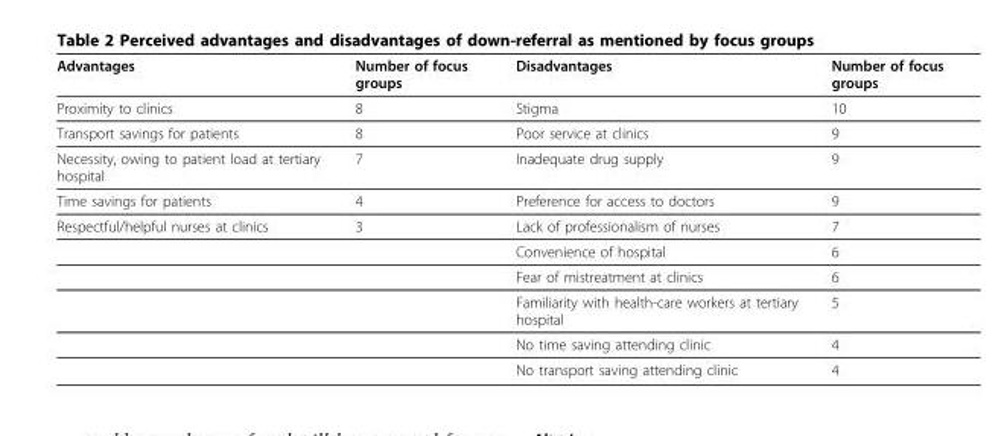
<table><thead><tr><td>Advantages</td><td>Number of focus groups</td><td>Disadvantages</td><td>Number of focus groups</td></tr></thead><tbody><tr><td>Proximity to clinics</td><td>8</td><td>Stigma</td><td>10</td></tr><tr><td>Transport savings for patients</td><td>8</td><td>Poor service at clinics</td><td>9</td></tr><tr><td>Necessity, owing to patient load at tertiary hospital</td><td>7</td><td>Inadequate drug supply</td><td>9</td></tr><tr><td>Time savings for patients</td><td>4</td><td>Preference for access to doctors</td><td>9</td></tr><tr><td rowspan="6">Respectful/helpful nurses at clinics</td><td>3</td><td>Lack of professionalism of nurses</td><td>7</td></tr><tr><td></td><td>Convenience of hospital</td><td>6</td></tr><tr><td></td><td>Fear of mistreatment at clinics</td><td>6</td></tr><tr><td></td><td>Familiarity with health-care workers at tertiary hospital</td><td>5</td></tr><tr><td></td><td>No time saving attending clinic</td><td>4</td></tr><tr><td></td><td>No transport saving attending clinic</td><td>4</td></tr></tbody></table>